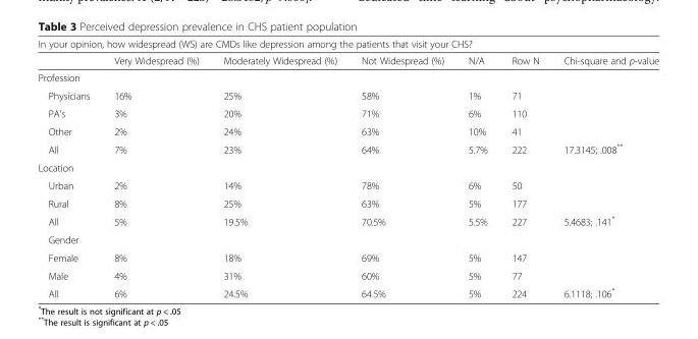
<table><thead><tr><td colspan="7">In your opinion, how widespread (WS) are CMDs like depression among the patients that visit your CHS?</td></tr><tr><td></td><td>Very Widespread (%)</td><td>Moderately Widespread (%)</td><td>Not Widespread (%)</td><td>N/A</td><td>Row N</td><td>Chi-square and p-value</td></tr></thead><tbody><tr><td colspan="7">Profession</td></tr><tr><td>Physicians</td><td>16%</td><td>25%</td><td>58%</td><td>1%</td><td>71</td><td></td></tr><tr><td>PA’s</td><td>3%</td><td>20%</td><td>71%</td><td>6%</td><td>110</td><td></td></tr><tr><td>Other</td><td>2%</td><td>24%</td><td>63%</td><td>10%</td><td>41</td><td></td></tr><tr><td>All</td><td>7%</td><td>23%</td><td>64%</td><td>5.7%</td><td>222</td><td>17.3145; .008**</td></tr><tr><td colspan="7">Location</td></tr><tr><td>Urban</td><td>2%</td><td>14%</td><td>78%</td><td>6%</td><td>50</td><td></td></tr><tr><td>Rural</td><td>8%</td><td>25%</td><td>63%</td><td>5%</td><td>177</td><td></td></tr><tr><td>All</td><td>5%</td><td>19.5%</td><td>70.5%</td><td>5.5%</td><td>227</td><td>5.4683; .141*</td></tr><tr><td colspan="7">Gender</td></tr><tr><td>Female</td><td>8%</td><td>18%</td><td>69%</td><td>5%</td><td>147</td><td></td></tr><tr><td>Male</td><td>4%</td><td>31%</td><td>60%</td><td>5%</td><td>77</td><td></td></tr><tr><td>All</td><td>6%</td><td>24.5%</td><td>64.5%</td><td>5%</td><td>224</td><td>6.1118; .106*</td></tr></tbody></table>